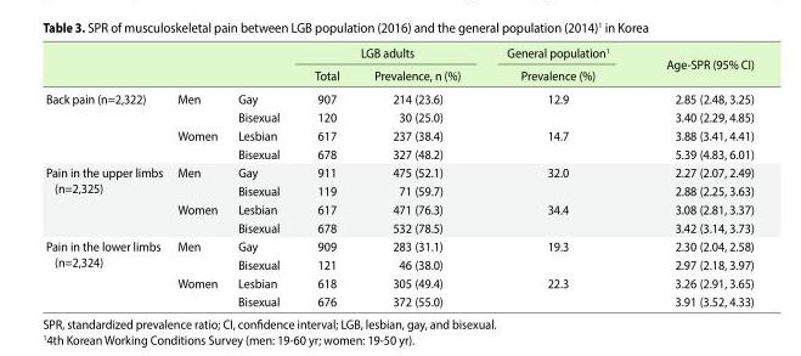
<table><thead><tr><td rowspan="2"></td><td rowspan="2"></td><td rowspan="2"></td><td colspan="2">LGB adults</td><td rowspan="2">General population<sup>1</sup> Prevalence (%)</td><td rowspan="2">Age-SPR (95% CI)</td></tr><tr><td>Total</td><td>Prevalence, n (%)</td></tr></thead><tbody><tr><td rowspan="4">Back pain (n=2,322)</td><td>Men</td><td>Gay</td><td>907</td><td>214 (23.6)</td><td>12.9</td><td>2.85 (2.48, 3.25)</td></tr><tr><td></td><td>Bisexual</td><td>120</td><td>30 (25.0)</td><td></td><td>3.40 (2.29, 4.85)</td></tr><tr><td>Women</td><td>Lesbian</td><td>617</td><td>237 (38.4)</td><td>14.7</td><td>3.88 (3.41, 4.41)</td></tr><tr><td></td><td>Bisexual</td><td>678</td><td>327 (48.2)</td><td></td><td>5.39 (4.83, 6.01)</td></tr><tr><td rowspan="4">Pain in the upper limbs (n=2,325)</td><td>Men</td><td>Gay</td><td>911</td><td>475 (52.1)</td><td>32.0</td><td>2.27 (2.07, 2.49)</td></tr><tr><td></td><td>Bisexual</td><td>119</td><td>71 (59.7)</td><td></td><td>2.88 (2.25, 3.63)</td></tr><tr><td>Women</td><td>Lesbian</td><td>617</td><td>471 (76.3)</td><td>34.4</td><td>3.08 (2.81, 3.37)</td></tr><tr><td></td><td>Bisexual</td><td>678</td><td>532 (78.5)</td><td></td><td>3.42 (3.14, 3.73)</td></tr><tr><td rowspan="4">Pain in the lower limbs (n=2,324)</td><td>Men</td><td>Gay</td><td>909</td><td>283 (31.1)</td><td>19.3</td><td>2.30 (2.04, 2.58)</td></tr><tr><td></td><td>Bisexual</td><td>121</td><td>46 (38.0)</td><td></td><td>2.97 (2.18, 3.97)</td></tr><tr><td>Women</td><td>Lesbian</td><td>618</td><td>305 (49.4)</td><td>22.3</td><td>3.26 (2.91, 3.65)</td></tr><tr><td></td><td>Bisexual</td><td>676</td><td>372 (55.0)</td><td></td><td>3.91 (3.52, 4.33)</td></tr></tbody></table>